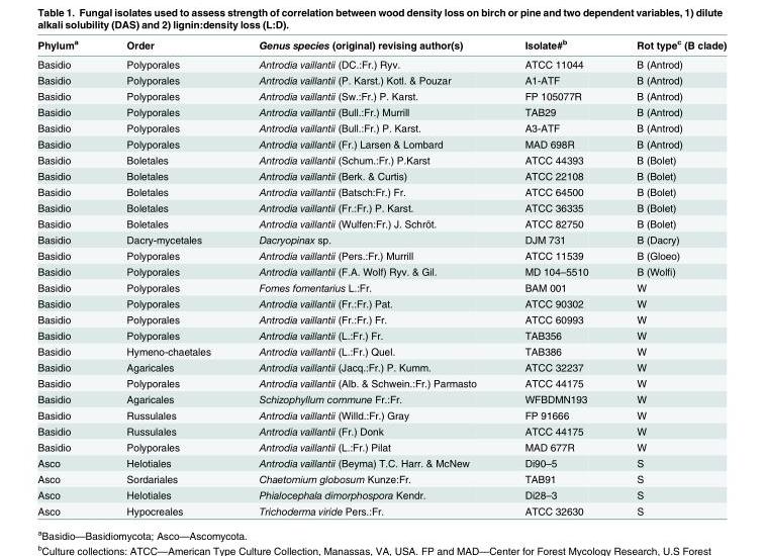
<table><thead><tr><td>Phylum<sup>a</sup></td><td>Order</td><td>Genus species (original) revising author(s)</td><td>Isolate#<sup>b</sup></td><td>Rot type<sup>c</sup> (B clade)</td></tr></thead><tbody><tr><td>Basidio</td><td>Polyporales</td><td>Antrodia vaillantii (DC.:Fr.) Ryv.</td><td>ATCC 11044</td><td>B (Antrod)</td></tr><tr><td>Basidio</td><td>Polyporales</td><td>Antrodia vaillantii (P. Karst.) Kotl. &amp; Pouzar</td><td>A1-ATF</td><td>B (Antrod)</td></tr><tr><td>Basidio</td><td>Polyporales</td><td>Antrodia vaillantii (Sw.:Fr.) P. Karst.</td><td>FP 105077R</td><td>B (Antrod)</td></tr><tr><td>Basidio</td><td>Polyporales</td><td>Antrodia vaillantii (Bull.:Fr.) Murrill</td><td>TAB29</td><td>B (Antrod)</td></tr><tr><td>Basidio</td><td>Polyporales</td><td>Antrodia vaillantii (Bull.:Fr.) P. Karst.</td><td>A3-ATF</td><td>B (Antrod)</td></tr><tr><td>Basidio</td><td>Polyporales</td><td>Antrodia vaillantii (Fr.) Larsen &amp; Lombard</td><td>MAD 698R</td><td>B (Antrod)</td></tr><tr><td>Basidio</td><td>Boletales</td><td>Antrodia vaillantii (Schum.:Fr.) P.Karst</td><td>ATCC 44393</td><td>B (Bolet)</td></tr><tr><td>Basidio</td><td>Boletales</td><td>Antrodia vaillantii (Berk. &amp; Curtis)</td><td>ATCC 22108</td><td>B (Bolet)</td></tr><tr><td>Basidio</td><td>Boletales</td><td>Antrodia vaillantii (Batsch:Fr.) Fr.</td><td>ATCC 64500</td><td>B (Bolet)</td></tr><tr><td>Basidio</td><td>Boletales</td><td>Antrodia vaillantii (Fr.:Fr.) P. Karst.</td><td>ATCC 36335</td><td>B (Bolet)</td></tr><tr><td>Basidio</td><td>Boletales</td><td>Antrodia vaillantii (Wulfen:Fr.) J. Schröt.</td><td>ATCC 82750</td><td>B (Bolet)</td></tr><tr><td>Basidio</td><td>Dacry-mycetales</td><td>Dacryopinax sp.</td><td>DJM 731</td><td>B (Dacry)</td></tr><tr><td>Basidio</td><td>Polyporales</td><td>Antrodia vaillantii (Pers.:Fr.) Murrill</td><td>ATCC 11539</td><td>B (Gloeo)</td></tr><tr><td>Basidio</td><td>Polyporales</td><td>Antrodia vaillantii (F.A. Wolf) Ryv. &amp; Gil.</td><td>MD 104–5510</td><td>B (Wolfi)</td></tr><tr><td>Basidio</td><td>Polyporales</td><td>Fomes fomentarius L.:Fr.</td><td>BAM 001</td><td>W</td></tr><tr><td>Basidio</td><td>Polyporales</td><td>Antrodia vaillantii (Fr.:Fr.) Pat.</td><td>ATCC 90302</td><td>W</td></tr><tr><td>Basidio</td><td>Polyporales</td><td>Antrodia vaillantii (Fr.:Fr.) Fr.</td><td>ATCC 60993</td><td>W</td></tr><tr><td>Basidio</td><td>Polyporales</td><td>Antrodia vaillantii (L.:Fr.) Fr.</td><td>TAB356</td><td>W</td></tr><tr><td>Basidio</td><td>Hymeno-chaetales</td><td>Antrodia vaillantii (L.:Fr.) Quel.</td><td>TAB386</td><td>W</td></tr><tr><td>Basidio</td><td>Agaricales</td><td>Antrodia vaillantii (Jacq.:Fr.) P. Kumm.</td><td>ATCC 32237</td><td>W</td></tr><tr><td>Basidio</td><td>Polyporales</td><td>Antrodia vaillantii (Alb. &amp; Schwein.:Fr.) Parmasto</td><td>ATCC 44175</td><td>W</td></tr><tr><td>Basidio</td><td>Agaricales</td><td>Schizophyllum commune Fr.:Fr.</td><td>WFBDMN193</td><td>W</td></tr><tr><td>Basidio</td><td>Russulales</td><td>Antrodia vaillantii (Willd.:Fr.) Gray</td><td>FP 91666</td><td>W</td></tr><tr><td>Basidio</td><td>Russulales</td><td>Antrodia vaillantii (Fr.) Donk</td><td>ATCC 44175</td><td>W</td></tr><tr><td>Basidio</td><td>Polyporales</td><td>Antrodia vaillantii (L.:Fr.) Pilat</td><td>MAD 677R</td><td>W</td></tr><tr><td>Asco</td><td>Helotiales</td><td>Antrodia vaillantii (Beyma) T.C. Harr. &amp; McNew</td><td>Di90–5</td><td>S</td></tr><tr><td>Asco</td><td>Sordariales</td><td>Chaetomium globosum Kunze:Fr.</td><td>TAB91</td><td>S</td></tr><tr><td>Asco</td><td>Helotiales</td><td>Phialocephala dimorphospora Kendr.</td><td>Di28–3</td><td>S</td></tr><tr><td>Asco</td><td>Hypocreales</td><td>Trichoderma viride Pers.:Fr.</td><td>ATCC 32630</td><td>S</td></tr></tbody></table>